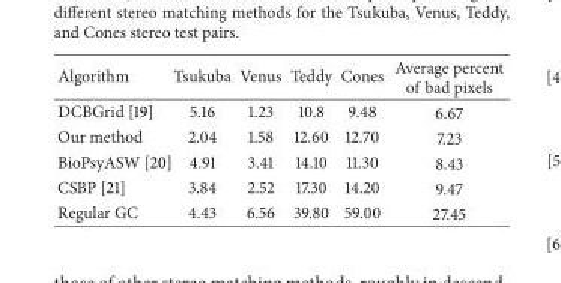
<table><thead><tr><td>Algorithm</td><td>Tsukuba</td><td>Venus</td><td>Teddy</td><td>Cones</td><td>Average percent of bad pixels</td></tr></thead><tbody><tr><td>DCBGrid [19]</td><td>5.16</td><td>1.23</td><td>10.8</td><td>9.48</td><td>6.67</td></tr><tr><td>Our method</td><td>2.04</td><td>1.58</td><td>12.60</td><td>12.70</td><td>7.23</td></tr><tr><td>BioPsyASW [20]</td><td>4.91</td><td>3.41</td><td>14.10</td><td>11.30</td><td>8.43</td></tr><tr><td>CSBP [21]</td><td>3.84</td><td>2.52</td><td>17.30</td><td>14.20</td><td>9.47</td></tr><tr><td>Regular GC</td><td>4.43</td><td>6.56</td><td>39.80</td><td>59.00</td><td>27.45</td></tr></tbody></table>